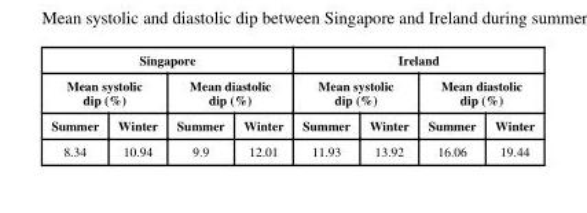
<table><thead><tr><td colspan="4">Singapore</td><td colspan="4">Ireland</td></tr><tr><td colspan="2">Mean systolic dip (%)</td><td colspan="2">Mean diastolic dip (%)</td><td colspan="2">Mean systolic dip (%)</td><td colspan="2">Mean diastolic dip (%)</td></tr><tr><td>Summer</td><td>Winter</td><td>Summer</td><td>Winter</td><td>Summer</td><td>Winter</td><td>Summer</td><td>Winter</td></tr></thead><tbody><tr><td>8.34</td><td>10.94</td><td>9.9</td><td>12.01</td><td>11.93</td><td>13.92</td><td>16.06</td><td>19.44</td></tr></tbody></table>